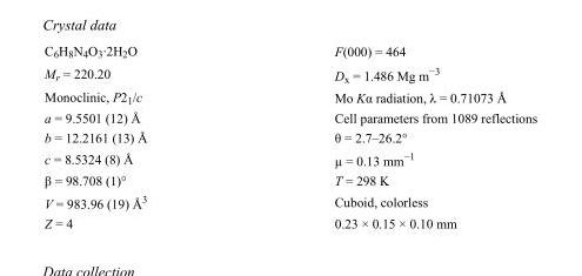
<table><tbody><tr><td>C<sub>6</sub>H<sub>8</sub>N<sub>4</sub>O<sub>3</sub>·2H<sub>2</sub>O</td><td>F(000) = 464</td></tr><tr><td>M<sub>r</sub> = 220.20</td><td>D<sub>x</sub> = 1.486 Mg m<sup>−3</sup></td></tr><tr><td>Monoclinic, P2<sub>1</sub>/c</td><td>Mo Kα radiation, λ = 0.71073 Å</td></tr><tr><td>a = 9.5501 (12) Å</td><td>Cell parameters from 1089 reflections</td></tr><tr><td>b = 12.2161 (13) Å</td><td>θ = 2.7–26.2°</td></tr><tr><td>c = 8.5324 (8) Å</td><td>µ = 0.13 mm<sup>−1</sup></td></tr><tr><td>β = 98.708 (1)°</td><td>T = 298 K</td></tr><tr><td>V = 983.96 (19) Å<sup>3</sup></td><td>Cuboid, colorless</td></tr><tr><td>Z = 4</td><td>0.23 × 0.15 × 0.10 mm</td></tr></tbody></table>